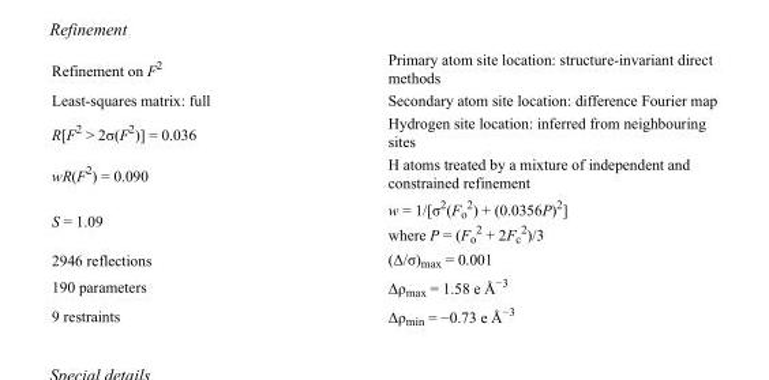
<table><tbody><tr><td>Refinement on F<sup>2</sup></td><td>Primary atom site location: structure-invariant direct methods</td></tr><tr><td>Least-squares matrix: full</td><td>Secondary atom site location: difference Fourier map</td></tr><tr><td>R[F<sup>2</sup> &gt; 2σ(F<sup>2</sup>)] = 0.036</td><td>Hydrogen site location: inferred from neighbouring sites</td></tr><tr><td>wR(F<sup>2</sup>) = 0.090</td><td>H atoms treated by a mixture of independent and constrained refinement</td></tr><tr><td>S = 1.09</td><td>w = 1/[σ<sup>2</sup>(F<sub>o</sub> <sup>2</sup>) + (0.0356P)<sup>2</sup>] where P = (F<sub>o</sub> <sup>2</sup> + 2F<sub>c</sub> <sup>2</sup>)/3</td></tr><tr><td>2946 reflections</td><td>(Δ/σ)<sub>max</sub> = 0.001</td></tr><tr><td>190 parameters</td><td>Δρ<sub>max</sub> = 1.58 e Å<sup>−3</sup></td></tr><tr><td>9 restraints</td><td>Δρ<sub>min</sub> = −0.73 e Å<sup>−3</sup></td></tr></tbody></table>